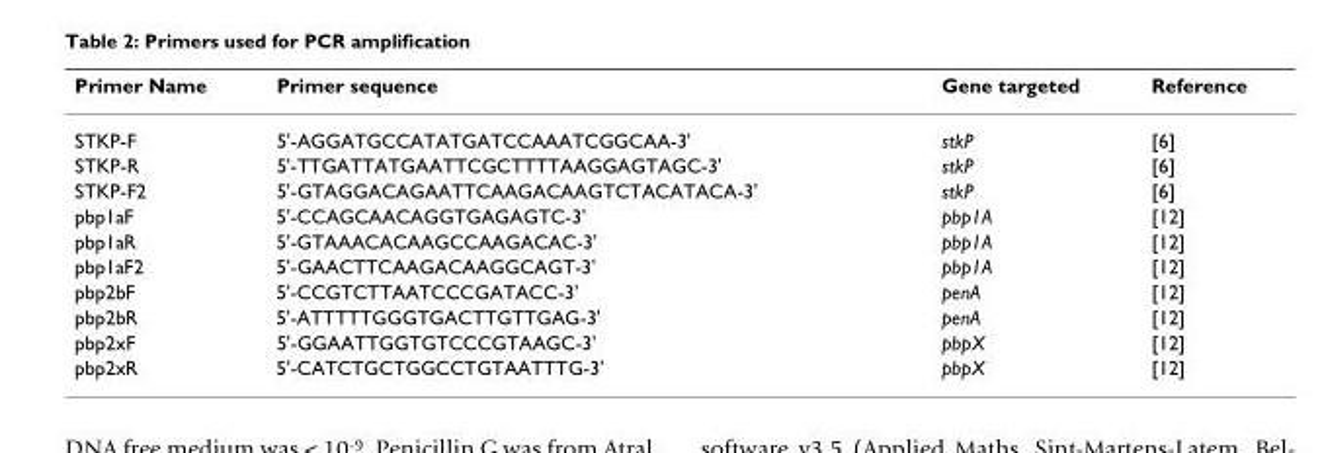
<table><thead><tr><td>Primer Name</td><td>Primer sequence</td><td>Gene targeted</td><td>Reference</td></tr></thead><tbody><tr><td>STKP-F</td><td>5&#x27;-AGGATGCCATATGATCCAAATCGGCAA-3&#x27;</td><td>stkP</td><td>[6]</td></tr><tr><td>STKP-R</td><td>5&#x27;-TTGATTATGAATTCGCTTTTAAGGAGTAGC-3&#x27;</td><td>stkP</td><td>[6]</td></tr><tr><td>STKP-F2</td><td>5&#x27;-GTAGGACAGAATTCAAGACAAGTCTACATACA-3&#x27;</td><td>stkP</td><td>[6]</td></tr><tr><td>pbp1aF</td><td>5&#x27;-CCAGCAACAGGTGAGAGTC-3&#x27;</td><td>pbp1A</td><td>[12]</td></tr><tr><td>pbp1aR</td><td>5&#x27;-GTAAACACAAGCCAAGACAC-3&#x27;</td><td>pbp1A</td><td>[12]</td></tr><tr><td>pbp1aF2</td><td>5&#x27;-GAACTTCAAGACAAGGCAGT-3&#x27;</td><td>pbp1A</td><td>[12]</td></tr><tr><td>pbp2bF</td><td>5&#x27;-CCGTCTTAATCCCGATACC-3&#x27;</td><td>penA</td><td>[12]</td></tr><tr><td>pbp2bR</td><td>5&#x27;-ATTTTTGGGTGACTTGTTGAG-3&#x27;</td><td>penA</td><td>[12]</td></tr><tr><td>pbp2xF</td><td>5&#x27;-GGAATTGGTGTCCCGTAAGC-3&#x27;</td><td>pbpX</td><td>[12]</td></tr><tr><td>pbp2xR</td><td>5&#x27;-CATCTGCTGGCCTGTAATTTG-3&#x27;</td><td>pbpX</td><td>[12]</td></tr></tbody></table>